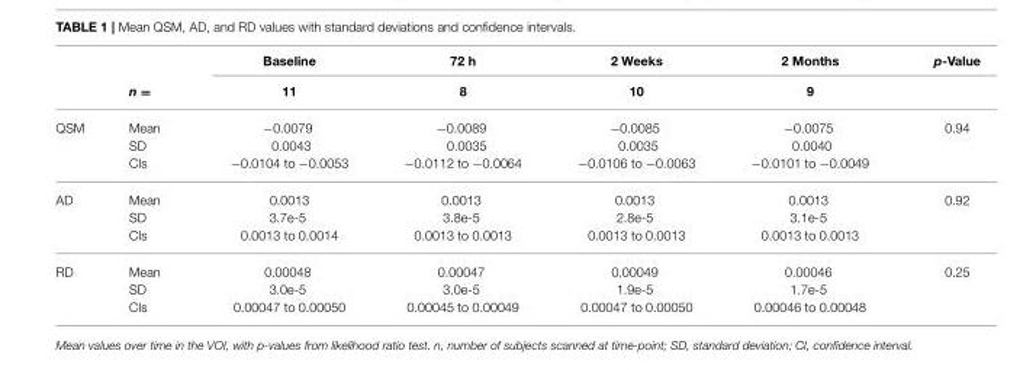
<table><thead><tr><td rowspan="2"></td><td rowspan="2">n =</td><td rowspan="2">Baseline 11</td><td rowspan="2">72 h 8</td><td rowspan="2">2 Weeks 10</td><td rowspan="2">2 Months 9</td><td rowspan="2">p-Value</td></tr><tr></tr></thead><tbody><tr><td>QSM</td><td>Mean SD CIs</td><td>−0.0079 0.0043 −0.0104 to −0.0053</td><td>−0.0089 0.0035 −0.0112 to −0.0064</td><td>−0.0085 0.0035 −0.0106 to −0.0063</td><td>−0.0075 0.0040 −0.0101 to −0.0049</td><td>0.94</td></tr><tr><td>AD</td><td>Mean SD CIs</td><td>0.0013 3.7e-5 0.0013 to 0.0014</td><td>0.0013 3.8e-5 0.0013 to 0.0013</td><td>0.0013 2.8e-5 0.0013 to 0.0013</td><td>0.0013 3.1e-5 0.0013 to 0.0013</td><td>0.92</td></tr><tr><td>RD</td><td>Mean SD CIs</td><td>0.00048 3.0e-5 0.00047 to 0.00050</td><td>0.00047 3.0e-5 0.00045 to 0.00049</td><td>0.00049 1.9e-5 0.00047 to 0.00050</td><td>0.00046 1.7e-5 0.00046 to 0.00048</td><td>0.25</td></tr></tbody></table>